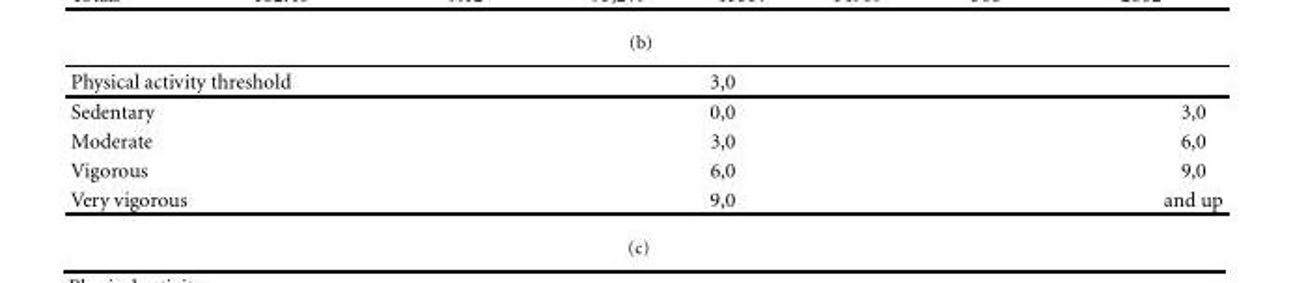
<table><thead><tr><td>Physical activity threshold</td><td>3,0</td><td></td></tr></thead><tbody><tr><td>Sedentary</td><td>0,0</td><td>3,0</td></tr><tr><td>Moderate</td><td>3,0</td><td>6,0</td></tr><tr><td>Vigorous</td><td>6,0</td><td>9,0</td></tr><tr><td>Very vigorous</td><td>9,0</td><td>and up</td></tr></tbody></table>